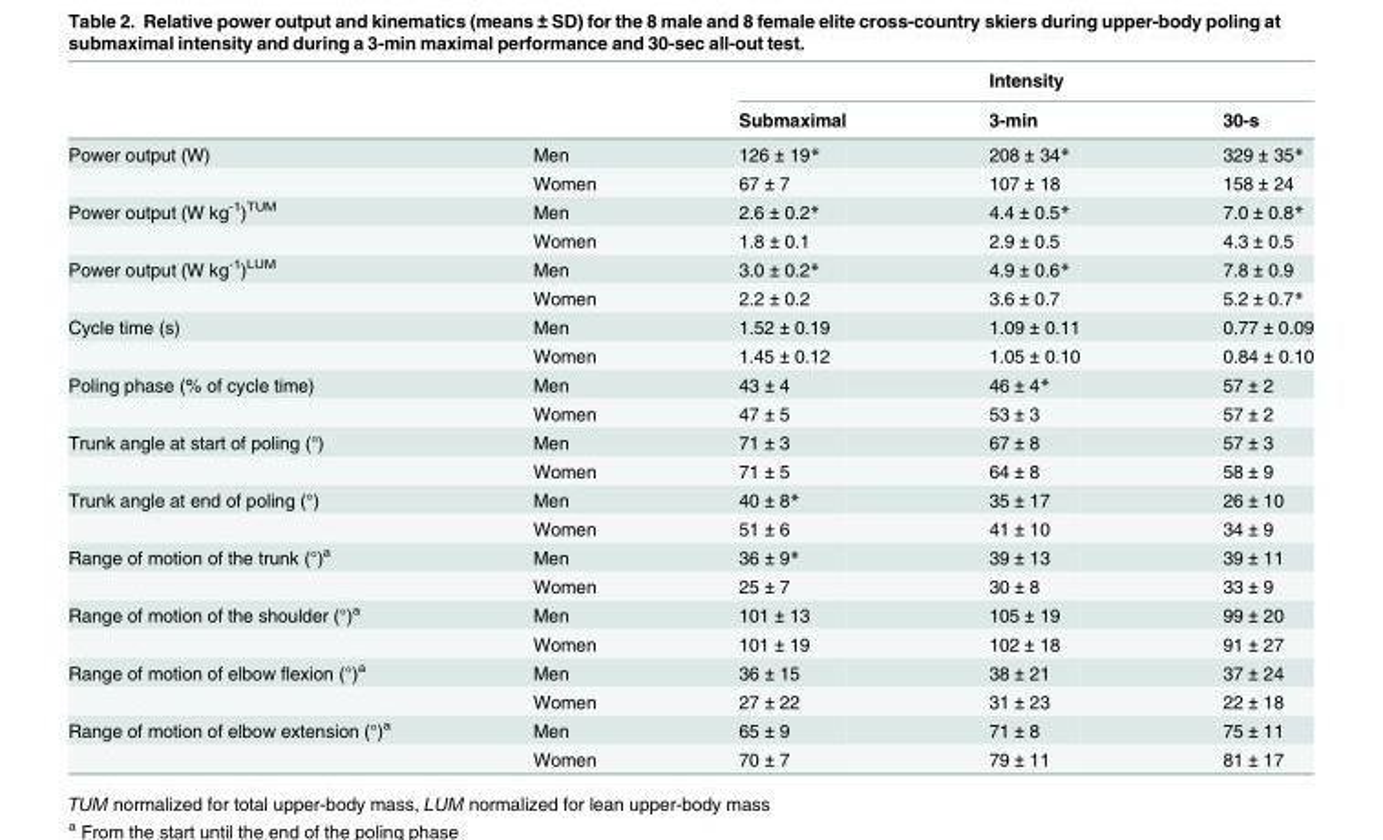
<table><thead><tr><td rowspan="2"></td><td rowspan="2"></td><td colspan="3">Intensity</td></tr><tr><td>Submaximal</td><td>3-min</td><td>30-s</td></tr></thead><tbody><tr><td rowspan="2">Power output (W)</td><td>Men</td><td>126 ± 19*</td><td>208 ± 34*</td><td>329 ± 35*</td></tr><tr><td>Women</td><td>67 ± 7</td><td>107 ± 18</td><td>158 ± 24</td></tr><tr><td rowspan="2">Power output (W kg<sup>-1</sup>)<sup>TUM</sup></td><td>Men</td><td>2.6 ± 0.2*</td><td>4.4 ± 0.5*</td><td>7.0 ± 0.8*</td></tr><tr><td>Women</td><td>1.8 ± 0.1</td><td>2.9 ± 0.5</td><td>4.3 ± 0.5</td></tr><tr><td rowspan="2">Power output (W kg<sup>-1</sup>)<sup>LUM</sup></td><td>Men</td><td>3.0 ± 0.2*</td><td>4.9 ± 0.6*</td><td>7.8 ± 0.9</td></tr><tr><td>Women</td><td>2.2 ± 0.2</td><td>3.6 ± 0.7</td><td>5.2 ± 0.7*</td></tr><tr><td rowspan="2">Cycle time (s)</td><td>Men</td><td>1.52 ± 0.19</td><td>1.09 ± 0.11</td><td>0.77 ± 0.09</td></tr><tr><td>Women</td><td>1.45 ± 0.12</td><td>1.05 ± 0.10</td><td>0.84 ± 0.10</td></tr><tr><td rowspan="2">Poling phase (% of cycle time)</td><td>Men</td><td>43 ± 4</td><td>46 ± 4*</td><td>57 ± 2</td></tr><tr><td>Women</td><td>47 ± 5</td><td>53 ± 3</td><td>57 ± 2</td></tr><tr><td rowspan="2">Trunk angle at start of poling (°)</td><td>Men</td><td>71 ± 3</td><td>67 ± 8</td><td>57 ± 3</td></tr><tr><td>Women</td><td>71 ± 5</td><td>64 ± 8</td><td>58 ± 9</td></tr><tr><td rowspan="2">Trunk angle at end of poling (°)</td><td>Men</td><td>40 ± 8*</td><td>35 ± 17</td><td>26 ± 10</td></tr><tr><td>Women</td><td>51 ± 6</td><td>41 ± 10</td><td>34 ± 9</td></tr><tr><td rowspan="2">Range of motion of the trunk (°)<sup>a</sup></td><td>Men</td><td>36 ± 9*</td><td>39 ± 13</td><td>39 ± 11</td></tr><tr><td>Women</td><td>25 ± 7</td><td>30 ± 8</td><td>33 ± 9</td></tr><tr><td rowspan="2">Range of motion of the shoulder (°)<sup>a</sup></td><td>Men</td><td>101 ± 13</td><td>105 ± 19</td><td>99 ± 20</td></tr><tr><td>Women</td><td>101 ± 19</td><td>102 ± 18</td><td>91 ± 27</td></tr><tr><td rowspan="2">Range of motion of elbow flexion (°)<sup>a</sup></td><td>Men</td><td>36 ± 15</td><td>38 ± 21</td><td>37 ± 24</td></tr><tr><td>Women</td><td>27 ± 22</td><td>31 ± 23</td><td>22 ± 18</td></tr><tr><td rowspan="2">Range of motion of elbow extension (°)<sup>a</sup></td><td>Men</td><td>65 ± 9</td><td>71 ± 8</td><td>75 ± 11</td></tr><tr><td>Women</td><td>70 ± 7</td><td>79 ± 11</td><td>81 ± 17</td></tr></tbody></table>